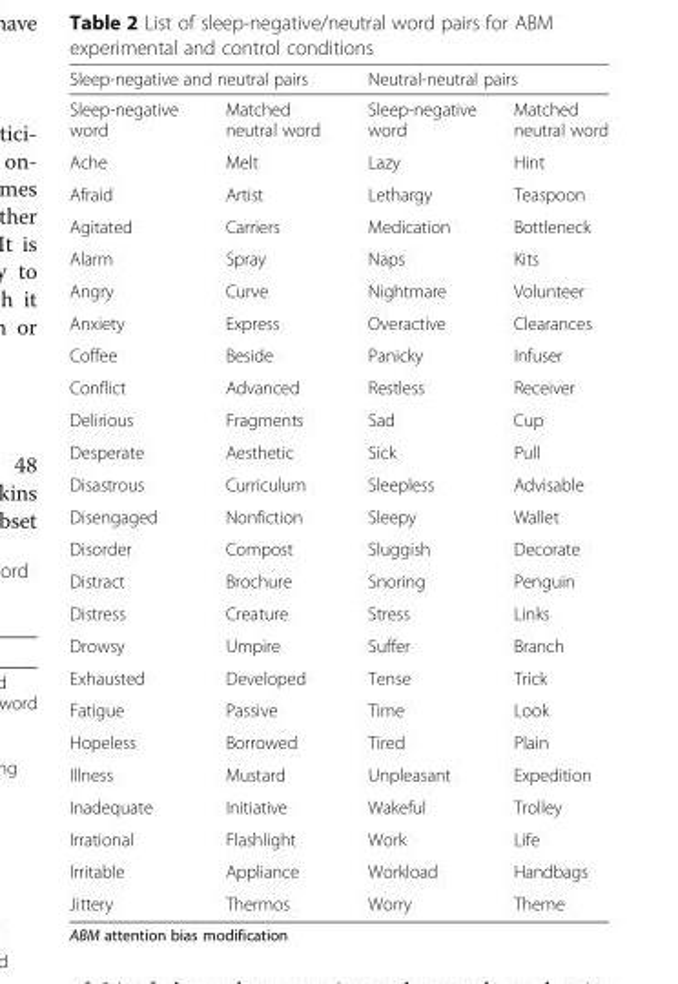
<table><thead><tr><td colspan="2">Sleep-negative and neutral pairs</td><td colspan="2">Neutral-neutral pairs</td></tr><tr><td>Sleep-negative word</td><td>Matched neutral word</td><td>Sleep-negative word</td><td>Matched neutral word</td></tr></thead><tbody><tr><td>Ache</td><td>Melt</td><td>Lazy</td><td>Hint</td></tr><tr><td>Afraid</td><td>Artist</td><td>Lethargy</td><td>Teaspoon</td></tr><tr><td>Agitated</td><td>Carriers</td><td>Medication</td><td>Bottleneck</td></tr><tr><td>Alarm</td><td>Spray</td><td>Naps</td><td>Kits</td></tr><tr><td>Angry</td><td>Curve</td><td>Nightmare</td><td>Volunteer</td></tr><tr><td>Anxiety</td><td>Express</td><td>Overactive</td><td>Clearances</td></tr><tr><td>Coffee</td><td>Beside</td><td>Panicky</td><td>Infuser</td></tr><tr><td>Conflict</td><td>Advanced</td><td>Restless</td><td>Receiver</td></tr><tr><td>Delirious</td><td>Fragments</td><td>Sad</td><td>Cup</td></tr><tr><td>Desperate</td><td>Aesthetic</td><td>Sick</td><td>Pull</td></tr><tr><td>Disastrous</td><td>Curriculum</td><td>Sleepless</td><td>Advisable</td></tr><tr><td>Disengaged</td><td>Nonfiction</td><td>Sleepy</td><td>Wallet</td></tr><tr><td>Disorder</td><td>Compost</td><td>Sluggish</td><td>Decorate</td></tr><tr><td>Distract</td><td>Brochure</td><td>Snoring</td><td>Penguin</td></tr><tr><td>Distress</td><td>Creature</td><td>Stress</td><td>Links</td></tr><tr><td>Drowsy</td><td>Umpire</td><td>Suffer</td><td>Branch</td></tr><tr><td>Exhausted</td><td>Developed</td><td>Tense</td><td>Trick</td></tr><tr><td>Fatigue</td><td>Passive</td><td>Time</td><td>Look</td></tr><tr><td>Hopeless</td><td>Borrowed</td><td>Tired</td><td>Plain</td></tr><tr><td>Illness</td><td>Mustard</td><td>Unpleasant</td><td>Expedition</td></tr><tr><td>Inadequate</td><td>Initiative</td><td>Wakeful</td><td>Trolley</td></tr><tr><td>Irrational</td><td>Flashlight</td><td>Work</td><td>Life</td></tr><tr><td>Irritable</td><td>Appliance</td><td>Workload</td><td>Handbags</td></tr><tr><td>Jittery</td><td>Thermos</td><td>Worry</td><td>Theme</td></tr></tbody></table>